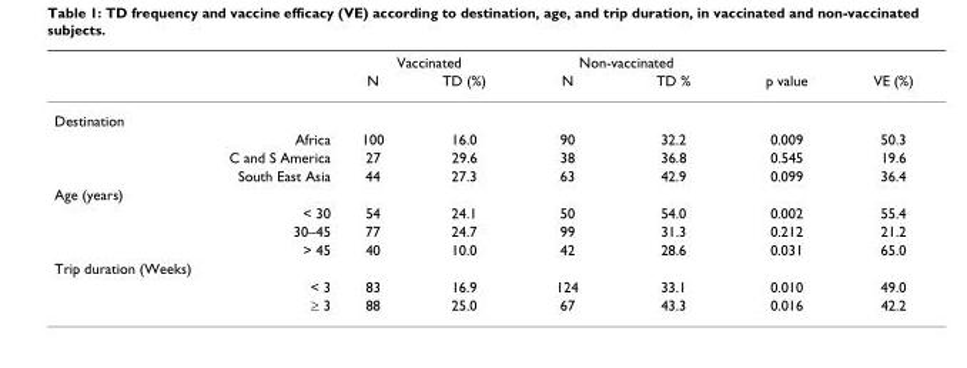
<table><thead><tr><td rowspan="2"></td><td colspan="2">Vaccinated</td><td colspan="2">Non-vaccinated</td><td rowspan="2">p value</td><td rowspan="2">VE (%)</td></tr><tr><td>N</td><td>TD (%)</td><td>N</td><td>TD %</td></tr></thead><tbody><tr><td colspan="7">Destination</td></tr><tr><td>Africa</td><td>100</td><td>16.0</td><td>90</td><td>32.2</td><td>0.009</td><td>50.3</td></tr><tr><td>C and S America</td><td>27</td><td>29.6</td><td>38</td><td>36.8</td><td>0.545</td><td>19.6</td></tr><tr><td>South East Asia</td><td>44</td><td>27.3</td><td>63</td><td>42.9</td><td>0.099</td><td>36.4</td></tr><tr><td colspan="7">Age (years)</td></tr><tr><td>&lt; 30</td><td>54</td><td>24.1</td><td>50</td><td>54.0</td><td>0.002</td><td>55.4</td></tr><tr><td>30–45</td><td>77</td><td>24.7</td><td>99</td><td>31.3</td><td>0.212</td><td>21.2</td></tr><tr><td>&gt; 45</td><td>40</td><td>10.0</td><td>42</td><td>28.6</td><td>0.031</td><td>65.0</td></tr><tr><td colspan="7">Trip duration (Weeks)</td></tr><tr><td>&lt; 3</td><td>83</td><td>16.9</td><td>124</td><td>33.1</td><td>0.010</td><td>49.0</td></tr><tr><td>≥ 3</td><td>88</td><td>25.0</td><td>67</td><td>43.3</td><td>0.016</td><td>42.2</td></tr></tbody></table>